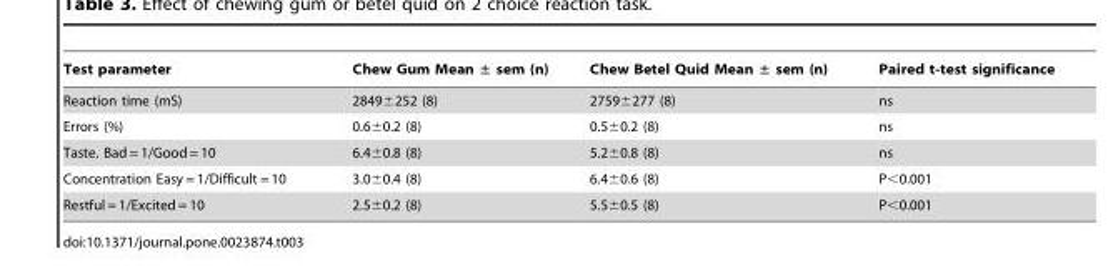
<table><thead><tr><td>Test parameter</td><td>Chew Gum Mean ± sem (n)</td><td>Chew Betel Quid Mean ± sem (n)</td><td>Paired t-test significance</td></tr></thead><tbody><tr><td>Reaction time (mS)</td><td>2849±252 (8)</td><td>2759±277 (8)</td><td>ns</td></tr><tr><td>Errors (%)</td><td>0.6±0.2 (8)</td><td>0.5±0.2 (8)</td><td>ns</td></tr><tr><td>Taste. Bad = 1/Good = 10</td><td>6.4±0.8 (8)</td><td>5.2±0.8 (8)</td><td>ns</td></tr><tr><td>Concentration Easy = 1/Difficult = 10</td><td>3.0±0.4 (8)</td><td>6.4±0.6 (8)</td><td>P&lt;0.001</td></tr><tr><td>Restful = 1/Excited = 10</td><td>2.5±0.2 (8)</td><td>5.5±0.5 (8)</td><td>P&lt;0.001</td></tr></tbody></table>